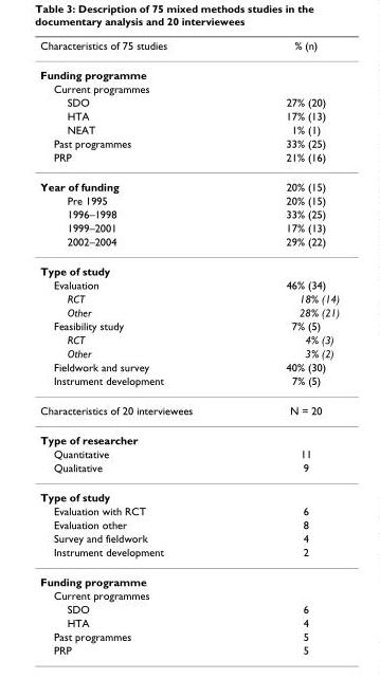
<table><thead><tr><td>Characteristics of 75 studies</td><td>% (n)</td></tr></thead><tbody><tr><td colspan="2">Funding programme</td></tr><tr><td colspan="2">Current programmes</td></tr><tr><td>SDO</td><td>27% (20)</td></tr><tr><td>HTA</td><td>17% (13)</td></tr><tr><td>NEAT</td><td>1% (1)</td></tr><tr><td>Past programmes</td><td>33% (25)</td></tr><tr><td>PRP</td><td>21% (16)</td></tr><tr><td>Year of funding</td><td>20% (15)</td></tr><tr><td>Pre 1995</td><td>20% (15)</td></tr><tr><td>1996–1998</td><td>33% (25)</td></tr><tr><td>1999–2001</td><td>17% (13)</td></tr><tr><td>2002–2004</td><td>29% (22)</td></tr><tr><td colspan="2">Type of study</td></tr><tr><td>Evaluation</td><td>46% (34)</td></tr><tr><td>RCT</td><td>18% (14)</td></tr><tr><td>Other</td><td>28% (21)</td></tr><tr><td>Feasibility study</td><td>7% (5)</td></tr><tr><td>RCT</td><td>4% (3)</td></tr><tr><td>Other</td><td>3% (2)</td></tr><tr><td>Fieldwork and survey</td><td>40% (30)</td></tr><tr><td>Instrument development</td><td>7% (5)</td></tr><tr><td>Characteristics of 20 interviewees</td><td>N = 20</td></tr><tr><td colspan="2">Type of researcher</td></tr><tr><td>Quantitative</td><td>11</td></tr><tr><td>Qualitative</td><td>9</td></tr><tr><td colspan="2">Type of study</td></tr><tr><td>Evaluation with RCT</td><td>6</td></tr><tr><td>Evaluation other</td><td>8</td></tr><tr><td>Survey and fieldwork</td><td>4</td></tr><tr><td>Instrument development</td><td>2</td></tr><tr><td colspan="2">Funding programme</td></tr><tr><td colspan="2">Current programmes</td></tr><tr><td>SDO</td><td>6</td></tr><tr><td>HTA</td><td>4</td></tr><tr><td>Past programmes</td><td>5</td></tr><tr><td>PRP</td><td>5</td></tr></tbody></table>